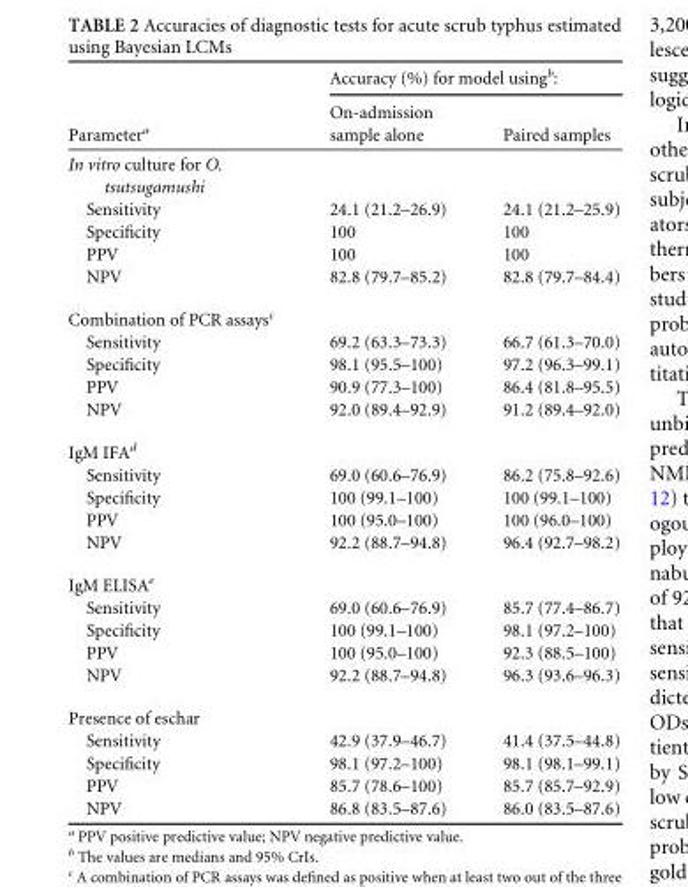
<table><thead><tr><td rowspan="2">Parameter<sup>a</sup></td><td colspan="2">Accuracy (%) for model using<sup>b</sup>:</td></tr><tr><td>On-admission sample alone</td><td>Paired samples</td></tr></thead><tbody><tr><td colspan="3">In vitro culture for O. tsutsugamushi</td></tr><tr><td>Sensitivity</td><td>24.1 (21.2–26.9)</td><td>24.1 (21.2–25.9)</td></tr><tr><td>Specificity</td><td>100</td><td>100</td></tr><tr><td>PPV</td><td>100</td><td>100</td></tr><tr><td>NPV</td><td>82.8 (79.7–85.2)</td><td>82.8 (79.7–84.4)</td></tr><tr><td colspan="3">Combination of PCR assays<sup>c</sup></td></tr><tr><td>Sensitivity</td><td>69.2 (63.3–73.3)</td><td>66.7 (61.3–70.0)</td></tr><tr><td>Specificity</td><td>98.1 (95.5–100)</td><td>97.2 (96.3–99.1)</td></tr><tr><td>PPV</td><td>90.9 (77.3–100)</td><td>86.4 (81.8–95.5)</td></tr><tr><td>NPV</td><td>92.0 (89.4–92.9)</td><td>91.2 (89.4–92.0)</td></tr><tr><td colspan="3">IgM IFA<sup>d</sup></td></tr><tr><td>Sensitivity</td><td>69.0 (60.6–76.9)</td><td>86.2 (75.8–92.6)</td></tr><tr><td>Specificity</td><td>100 (99.1–100)</td><td>100 (99.1–100)</td></tr><tr><td>PPV</td><td>100 (95.0–100)</td><td>100 (96.0–100)</td></tr><tr><td>NPV</td><td>92.2 (88.7–94.8)</td><td>96.4 (92.7–98.2)</td></tr><tr><td colspan="3">IgM ELISA<sup>e</sup></td></tr><tr><td>Sensitivity</td><td>69.0 (60.6–76.9)</td><td>85.7 (77.4–86.7)</td></tr><tr><td>Specificity</td><td>100 (99.1–100)</td><td>98.1 (97.2–100)</td></tr><tr><td>PPV</td><td>100 (95.0–100)</td><td>92.3 (88.5–100)</td></tr><tr><td>NPV</td><td>92.2 (88.7–94.8)</td><td>96.3 (93.6–96.3)</td></tr><tr><td colspan="3">Presence of eschar</td></tr><tr><td>Sensitivity</td><td>42.9 (37.9–46.7)</td><td>41.4 (37.5–44.8)</td></tr><tr><td>Specificity</td><td>98.1 (97.2–100)</td><td>98.1 (98.1–99.1)</td></tr><tr><td>PPV</td><td>85.7 (78.6–100)</td><td>85.7 (85.7–92.9)</td></tr><tr><td>NPV</td><td>86.8 (83.5–87.6)</td><td>86.0 (83.5–87.6)</td></tr></tbody></table>